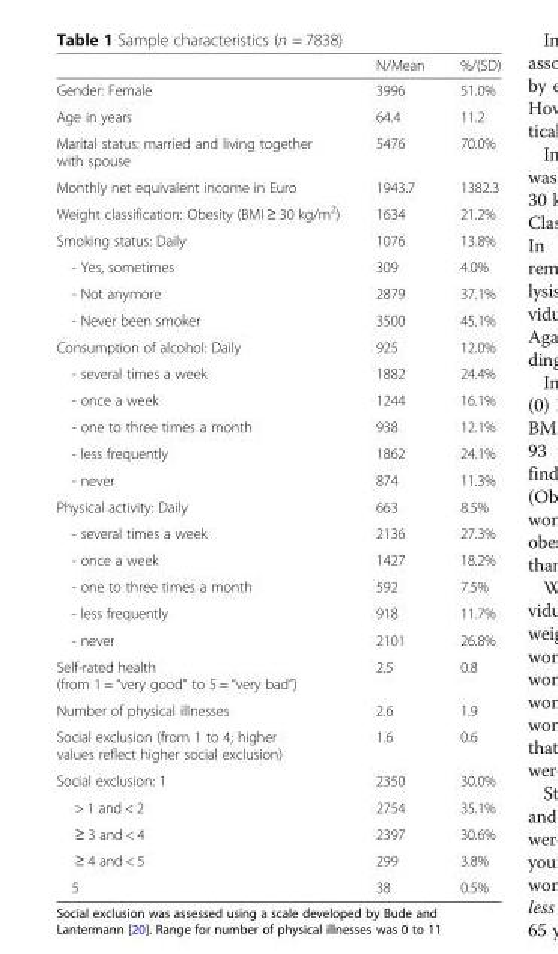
<table><thead><tr><td></td><td>N/Mean</td><td>%/(SD)</td></tr></thead><tbody><tr><td>Gender: Female</td><td>3996</td><td>51.0%</td></tr><tr><td>Age in years</td><td>64.4</td><td>11.2</td></tr><tr><td>Marital status: married and living together with spouse</td><td>5476</td><td>70.0%</td></tr><tr><td>Monthly net equivalent income in Euro</td><td>1943.7</td><td>1382.3</td></tr><tr><td>Weight classification: Obesity (BMI ≥ 30 kg/m<sup>2</sup>)</td><td>1634</td><td>21.2%</td></tr><tr><td>Smoking status: Daily</td><td>1076</td><td>13.8%</td></tr><tr><td>- Yes, sometimes</td><td>309</td><td>4.0%</td></tr><tr><td>- Not anymore</td><td>2879</td><td>37.1%</td></tr><tr><td>- Never been smoker</td><td>3500</td><td>45.1%</td></tr><tr><td>Consumption of alcohol: Daily</td><td>925</td><td>12.0%</td></tr><tr><td>- several times a week</td><td>1882</td><td>24.4%</td></tr><tr><td>- once a week</td><td>1244</td><td>16.1%</td></tr><tr><td>- one to three times a month</td><td>938</td><td>12.1%</td></tr><tr><td>- less frequently</td><td>1862</td><td>24.1%</td></tr><tr><td>- never</td><td>874</td><td>11.3%</td></tr><tr><td>Physical activity: Daily</td><td>663</td><td>8.5%</td></tr><tr><td>- several times a week</td><td>2136</td><td>27.3%</td></tr><tr><td>- once a week</td><td>1427</td><td>18.2%</td></tr><tr><td>- one to three times a month</td><td>592</td><td>7.5%</td></tr><tr><td>- less frequently</td><td>918</td><td>11.7%</td></tr><tr><td>- never</td><td>2101</td><td>26.8%</td></tr><tr><td>Self-rated health (from 1 = “very good” to 5 = “very bad”)</td><td>2.5</td><td>0.8</td></tr><tr><td>Number of physical illnesses</td><td>2.6</td><td>1.9</td></tr><tr><td>Social exclusion (from 1 to 4; higher values reflect higher social exclusion)</td><td>1.6</td><td>0.6</td></tr><tr><td>Social exclusion: 1</td><td>2350</td><td>30.0%</td></tr><tr><td>&gt; 1 and &lt; 2</td><td>2754</td><td>35.1%</td></tr><tr><td>≥ 3 and &lt; 4</td><td>2397</td><td>30.6%</td></tr><tr><td>≥ 4 and &lt; 5</td><td>299</td><td>3.8%</td></tr><tr><td>5</td><td>38</td><td>0.5%</td></tr></tbody></table>